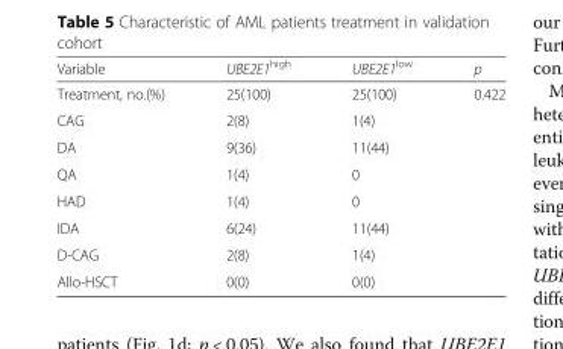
<table><thead><tr><td>Variable</td><td>UBE2E1<sup>high</sup></td><td>UBE2E1<sup>low</sup></td><td>p</td></tr></thead><tbody><tr><td>Treatment, no.(%)</td><td>25(100)</td><td>25(100)</td><td>0.422</td></tr><tr><td>CAG</td><td>2(8)</td><td>1(4)</td><td></td></tr><tr><td>DA</td><td>9(36)</td><td>11(44)</td><td></td></tr><tr><td>QA</td><td>1(4)</td><td>0</td><td></td></tr><tr><td>HAD</td><td>1(4)</td><td>0</td><td></td></tr><tr><td>IDA</td><td>6(24)</td><td>11(44)</td><td></td></tr><tr><td>D-CAG</td><td>2(8)</td><td>1(4)</td><td></td></tr><tr><td>Allo-HSCT</td><td>0(0)</td><td>0(0)</td><td></td></tr></tbody></table>